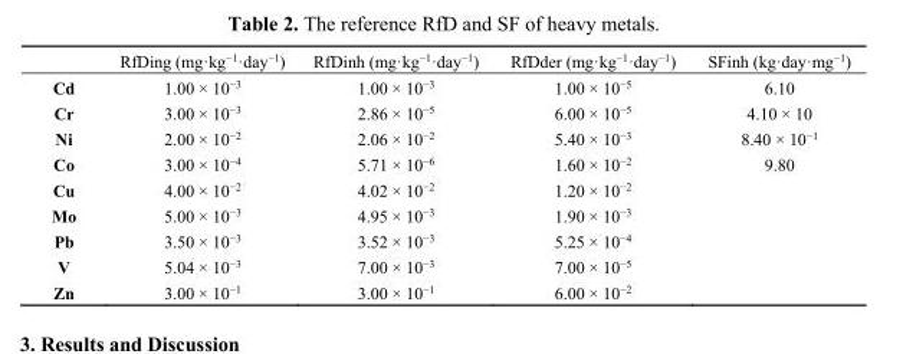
<table><thead><tr><td></td><td>RfDing (mg·kg<sup>−1</sup>·day<sup>−1</sup>)</td><td>RfDinh (mg·kg<sup>−1</sup>·day<sup>−1</sup>)</td><td>RfDder (mg·kg<sup>−1</sup>·day<sup>−1</sup>)</td><td>SFinh (kg·day·mg<sup>−1</sup>)</td></tr></thead><tbody><tr><td>Cd</td><td>1.00 × 10<sup>−3</sup></td><td>1.00 × 10<sup>−3</sup></td><td>1.00 × 10<sup>−5</sup></td><td>6.10</td></tr><tr><td>Cr</td><td>3.00 × 10<sup>−3</sup></td><td>2.86 × 10<sup>−5</sup></td><td>6.00 × 10<sup>−5</sup></td><td>4.10 × 10</td></tr><tr><td>Ni</td><td>2.00 × 10<sup>−2</sup></td><td>2.06 × 10<sup>−2</sup></td><td>5.40 × 10<sup>−3</sup></td><td>8.40 × 10<sup>−1</sup></td></tr><tr><td>Co</td><td>3.00 × 10<sup>−4</sup></td><td>5.71 × 10<sup>−6</sup></td><td>1.60 × 10<sup>−2</sup></td><td>9.80</td></tr><tr><td>Cu</td><td>4.00 × 10<sup>−2</sup></td><td>4.02 × 10<sup>−2</sup></td><td>1.20 × 10<sup>−2</sup></td><td></td></tr><tr><td>Mo</td><td>5.00 × 10<sup>−3</sup></td><td>4.95 × 10<sup>−3</sup></td><td>1.90 × 10<sup>−3</sup></td><td></td></tr><tr><td>Pb</td><td>3.50 × 10<sup>−3</sup></td><td>3.52 × 10<sup>−3</sup></td><td>5.25 × 10<sup>−4</sup></td><td></td></tr><tr><td>V</td><td>5.04 × 10<sup>−3</sup></td><td>7.00 × 10<sup>−3</sup></td><td>7.00 × 10<sup>−5</sup></td><td></td></tr><tr><td>Zn</td><td>3.00 × 10<sup>−1</sup></td><td>3.00 × 10<sup>−1</sup></td><td>6.00 × 10<sup>−2</sup></td><td></td></tr></tbody></table>